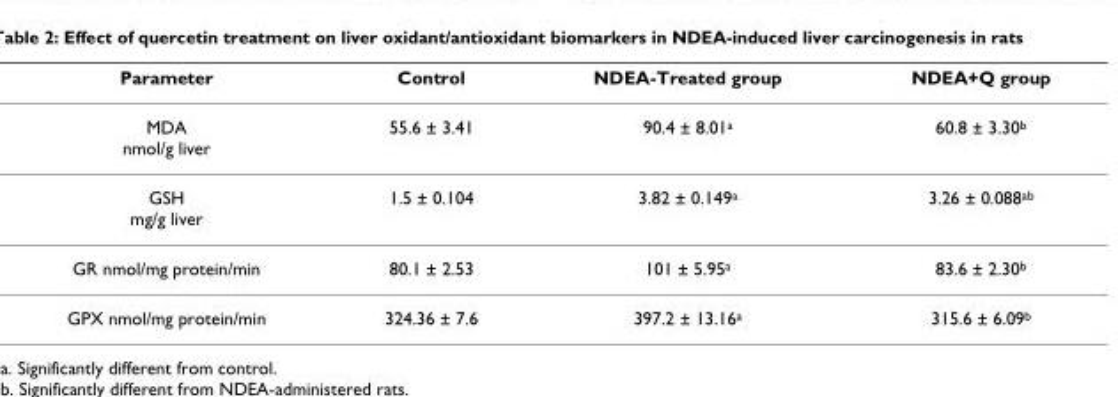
<table><thead><tr><td>Parameter</td><td>Control</td><td>NDEA-Treated group</td><td>NDEA+Q group</td></tr></thead><tbody><tr><td>MDA nmol/g liver</td><td>55.6 ± 3.41</td><td>90.4 ± 8.01<sup>a</sup></td><td>60.8 ± 3.30<sup>b</sup></td></tr><tr><td>GSH mg/g liver</td><td>1.5 ± 0.104</td><td>3.82 ± 0.149<sup>a</sup></td><td>3.26 ± 0.088<sup>ab</sup></td></tr><tr><td>GR nmol/mg protein/min</td><td>80.1 ± 2.53</td><td>101 ± 5.95<sup>a</sup></td><td>83.6 ± 2.30<sup>b</sup></td></tr><tr><td>GPX nmol/mg protein/min</td><td>324.36 ± 7.6</td><td>397.2 ± 13.16<sup>a</sup></td><td>315.6 ± 6.09<sup>b</sup></td></tr></tbody></table>